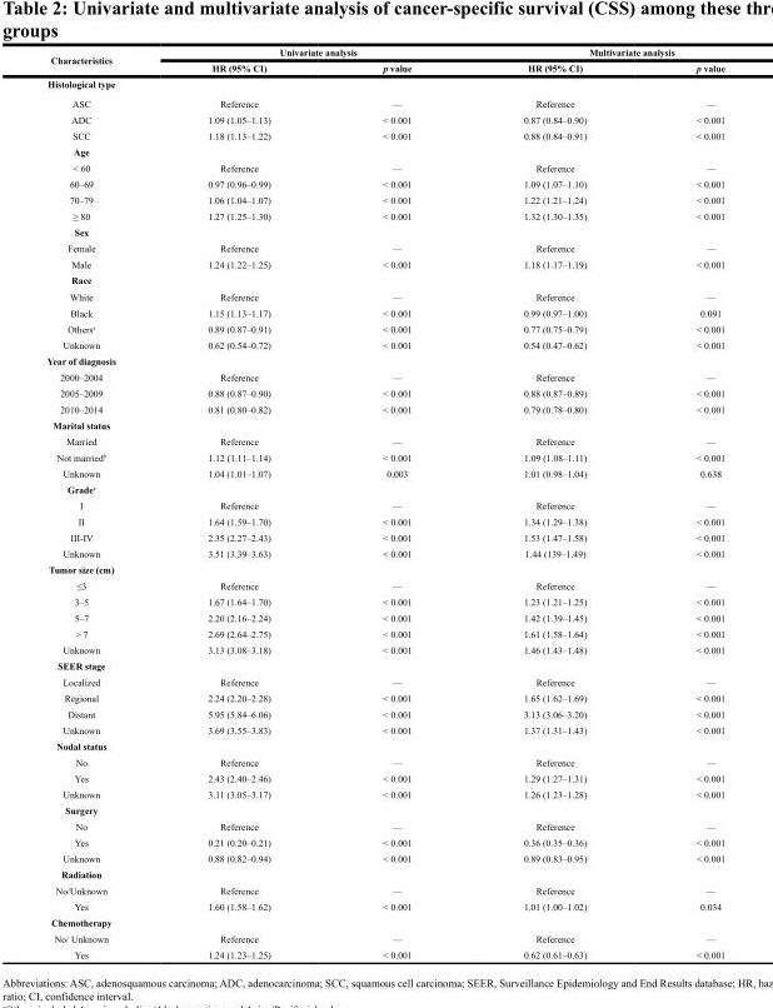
<table><thead><tr><td rowspan="2">Characteristics</td><td colspan="2">Univariate analysis</td><td colspan="2">Multivariate analysis</td></tr><tr><td>HR (95% CI)</td><td>p value</td><td>HR (95% CI)</td><td>p value</td></tr></thead><tbody><tr><td colspan="5">Histological type</td></tr><tr><td>ASC</td><td>Reference</td><td>—</td><td>Reference</td><td>—</td></tr><tr><td>ADC</td><td>1.09 (1.05–1.13)</td><td>&lt; 0.001</td><td>0.87 (0.84–0.90)</td><td>&lt; 0.001</td></tr><tr><td>SCC</td><td>1.18 (1.13–1.22)</td><td>&lt; 0.001</td><td>0.88 (0.84–0.91)</td><td>&lt; 0.001</td></tr><tr><td colspan="5">Age</td></tr><tr><td>&lt; 60</td><td>Reference</td><td>—</td><td>Reference</td><td>—</td></tr><tr><td>60–69</td><td>0.97 (0.96–0.99)</td><td>&lt; 0.001</td><td>1.09 (1.07–1.10)</td><td>&lt; 0.001</td></tr><tr><td>70–79</td><td>1.06 (1.04–1.07)</td><td>&lt; 0.001</td><td>1.22 (1.21–1.24)</td><td>&lt; 0.001</td></tr><tr><td>≥ 80</td><td>1.27 (1.25–1.30)</td><td>&lt; 0.001</td><td>1.32 (1.30–1.35)</td><td>&lt; 0.001</td></tr><tr><td colspan="5">Sex</td></tr><tr><td>Female</td><td>Reference</td><td>—</td><td>Reference</td><td>—</td></tr><tr><td>Male</td><td>1.24 (1.22–1.25)</td><td>&lt; 0.001</td><td>1.18 (1.17–1.19)</td><td>&lt; 0.001</td></tr><tr><td colspan="5">Race</td></tr><tr><td>White</td><td>Reference</td><td>—</td><td>Reference</td><td>—</td></tr><tr><td>Black</td><td>1.15 (1.13–1.17)</td><td>&lt; 0.001</td><td>0.99 (0.97–1.00)</td><td>0.091</td></tr><tr><td>Others<sup>a</sup></td><td>0.89 (0.87–0.91)</td><td>&lt; 0.001</td><td>0.77 (0.75–0.79)</td><td>&lt; 0.001</td></tr><tr><td>Unknown</td><td>0.62 (0.54–0.72)</td><td>&lt; 0.001</td><td>0.54 (0.47–0.62)</td><td>&lt; 0.001</td></tr><tr><td colspan="5">Year of diagnosis</td></tr><tr><td>2000–2004</td><td>Reference</td><td>—</td><td>Reference</td><td>—</td></tr><tr><td>2005–2009</td><td>0.88 (0.87–0.90)</td><td>&lt; 0.001</td><td>0.88 (0.87–0.89)</td><td>&lt; 0.001</td></tr><tr><td>2010–2014</td><td>0.81 (0.80–0.82)</td><td>&lt; 0.001</td><td>0.79 (0.78–0.80)</td><td>&lt; 0.001</td></tr><tr><td colspan="5">Marital status</td></tr><tr><td>Married</td><td>Reference</td><td>—</td><td>Reference</td><td>—</td></tr><tr><td>Not married<sup>b</sup></td><td>1.12 (1.11–1.14)</td><td>&lt; 0.001</td><td>1.09 (1.08–1.11)</td><td>&lt; 0.001</td></tr><tr><td>Unknown</td><td>1.04 (1.01–1.07)</td><td>0.003</td><td>1.01 (0.98–1.04)</td><td>0.638</td></tr><tr><td colspan="5">Grade<sup>c</sup></td></tr><tr><td>I</td><td>Reference</td><td>—</td><td>Reference</td><td>—</td></tr><tr><td>II</td><td>1.64 (1.59–1.70)</td><td>&lt; 0.001</td><td>1.34 (1.29–1.38)</td><td>&lt; 0.001</td></tr><tr><td>III-IV</td><td>2.35 (2.27–2.43)</td><td>&lt; 0.001</td><td>1.53 (1.47–1.58)</td><td>&lt; 0.001</td></tr><tr><td>Unknown</td><td>3.51 (3.39–3.63)</td><td>&lt; 0.001</td><td>1.44 (139–1.49)</td><td>&lt; 0.001</td></tr><tr><td colspan="5">Tumor size (cm)</td></tr><tr><td>≤3</td><td>Reference</td><td>—</td><td>Reference</td><td>—</td></tr><tr><td>3–5</td><td>1.67 (1.64–1.70)</td><td>&lt; 0.001</td><td>1.23 (1.21–1.25)</td><td>&lt; 0.001</td></tr><tr><td>5–7</td><td>2.20 (2.16–2.24)</td><td>&lt; 0.001</td><td>1.42 (1.39–1.45)</td><td>&lt; 0.001</td></tr><tr><td>&gt; 7</td><td>2.69 (2.64–2.75)</td><td>&lt; 0.001</td><td>1.61 (1.58–1.64)</td><td>&lt; 0.001</td></tr><tr><td>Unknown</td><td>3.13 (3.08–3.18)</td><td>&lt; 0.001</td><td>1.46 (1.43–1.48)</td><td>&lt; 0.001</td></tr><tr><td colspan="5">SEER stage</td></tr><tr><td>Localized</td><td>Reference</td><td>—</td><td>Reference</td><td>—</td></tr><tr><td>Regional</td><td>2.24 (2.20–2.28)</td><td>&lt; 0.001</td><td>1.65 (1.62–1.69)</td><td>&lt; 0.001</td></tr><tr><td>Distant</td><td>5.95 (5.84–6.06)</td><td>&lt; 0.001</td><td>3.13 (3.06–3.20)</td><td>&lt; 0.001</td></tr><tr><td>Unknown</td><td>3.69 (3.55–3.83)</td><td>&lt; 0.001</td><td>1.37 (1.31–1.43)</td><td>&lt; 0.001</td></tr><tr><td colspan="5">Nodal status</td></tr><tr><td>No</td><td>Reference</td><td>—</td><td>Reference</td><td>—</td></tr><tr><td>Yes</td><td>2.43 (2.40–2.46)</td><td>&lt; 0.001</td><td>1.29 (1.27–1.31)</td><td>&lt; 0.001</td></tr><tr><td>Unknown</td><td>3.11 (3.05–3.17)</td><td>&lt; 0.001</td><td>1.26 (1.23–1.28)</td><td>&lt; 0.001</td></tr><tr><td colspan="5">Surgery</td></tr><tr><td>No</td><td>Reference</td><td>—</td><td>Reference</td><td>—</td></tr><tr><td>Yes</td><td>0.21 (0.20–0.21)</td><td>&lt; 0.001</td><td>0.36 (0.35–0.36)</td><td>&lt; 0.001</td></tr><tr><td>Unknown</td><td>0.88 (0.82–0.94)</td><td>&lt; 0.001</td><td>0.89 (0.83–0.95)</td><td>&lt; 0.001</td></tr><tr><td colspan="5">Radiation</td></tr><tr><td>No/Unknown</td><td>Reference</td><td>—</td><td>Reference</td><td>—</td></tr><tr><td>Yes</td><td>1.60 (1.58–1.62)</td><td>&lt; 0.001</td><td>1.01 (1.00–1.02)</td><td>0.034</td></tr><tr><td colspan="5">Chemotherapy</td></tr><tr><td>No/ Unknown</td><td>Reference</td><td>—</td><td>Reference</td><td>—</td></tr><tr><td>Yes</td><td>1.24 (1.23–1.25)</td><td>&lt; 0.001</td><td>0.62 (0.61–0.63)</td><td>&lt; 0.001</td></tr></tbody></table>